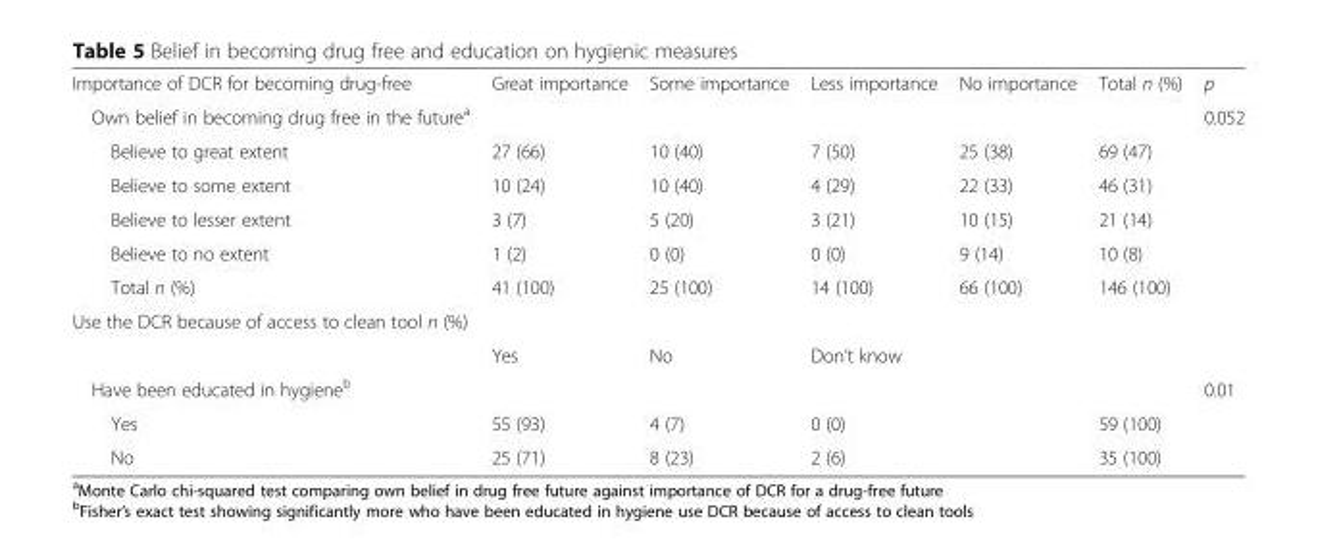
<table><tbody><tr><td>Importance of DCR for becoming drug-free</td><td>Great importance</td><td>Some importance</td><td>Less importance</td><td>No importance</td><td>Total n (%)</td><td>p</td></tr><tr><td>Own belief in becoming drug free in the future<sup>a</sup></td><td></td><td></td><td></td><td></td><td></td><td>0.052</td></tr><tr><td>Believe to great extent</td><td>27 (66)</td><td>10 (40)</td><td>7 (50)</td><td>25 (38)</td><td>69 (47)</td><td></td></tr><tr><td>Believe to some extent</td><td>10 (24)</td><td>10 (40)</td><td>4 (29)</td><td>22 (33)</td><td>46 (31)</td><td></td></tr><tr><td>Believe to lesser extent</td><td>3 (7)</td><td>5 (20)</td><td>3 (21)</td><td>10 (15)</td><td>21 (14)</td><td></td></tr><tr><td>Believe to no extent</td><td>1 (2)</td><td>0 (0)</td><td>0 (0)</td><td>9 (14)</td><td>10 (8)</td><td></td></tr><tr><td>Total n (%)</td><td>41 (100)</td><td>25 (100)</td><td>14 (100)</td><td>66 (100)</td><td>146 (100)</td><td></td></tr><tr><td colspan="7">Use the DCR because of access to clean tool n (%)</td></tr><tr><td></td><td>Yes</td><td>No</td><td>Don’t know</td><td></td><td></td><td></td></tr><tr><td>Have been educated in hygiene<sup>b</sup></td><td></td><td></td><td></td><td></td><td></td><td>0.01</td></tr><tr><td>Yes</td><td>55 (93)</td><td>4 (7)</td><td>0 (0)</td><td></td><td>59 (100)</td><td></td></tr><tr><td>No</td><td>25 (71)</td><td>8 (23)</td><td>2 (6)</td><td></td><td>35 (100)</td><td></td></tr></tbody></table>